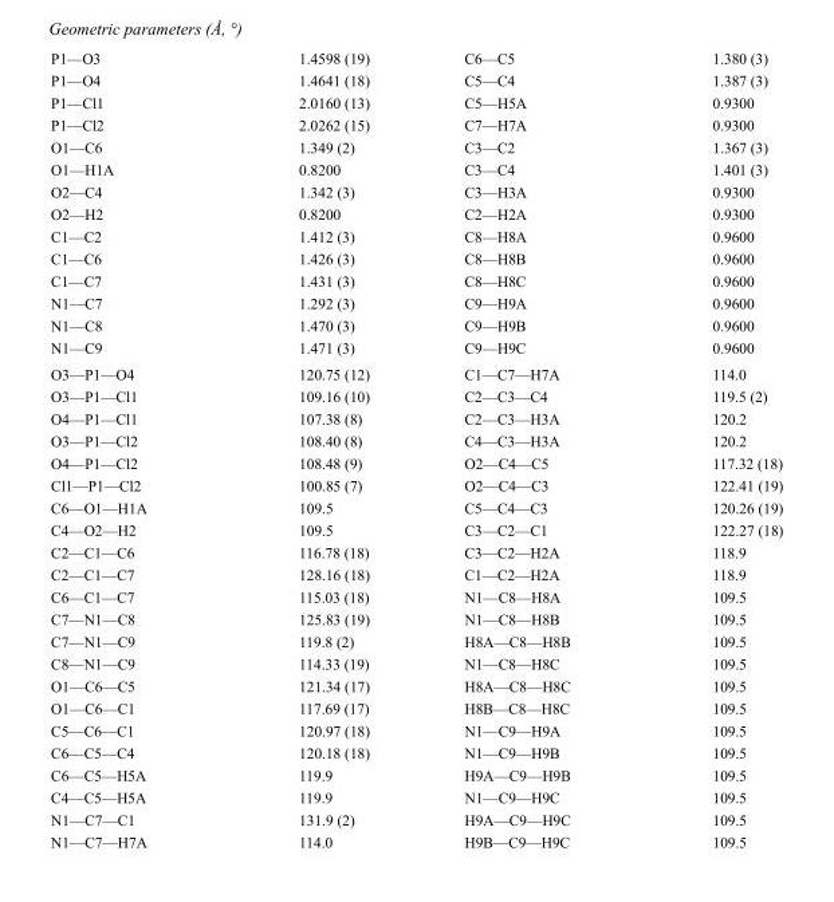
<table><tbody><tr><td>P1—O3</td><td>1.4598 (19)</td><td>C6—C5</td><td>1.380 (3)</td></tr><tr><td>P1—O4</td><td>1.4641 (18)</td><td>C5—C4</td><td>1.387 (3)</td></tr><tr><td>P1—Cl1</td><td>2.0160 (13)</td><td>C5—H5A</td><td>0.9300</td></tr><tr><td>P1—Cl2</td><td>2.0262 (15)</td><td>C7—H7A</td><td>0.9300</td></tr><tr><td>O1—C6</td><td>1.349 (2)</td><td>C3—C2</td><td>1.367 (3)</td></tr><tr><td>O1—H1A</td><td>0.8200</td><td>C3—C4</td><td>1.401 (3)</td></tr><tr><td>O2—C4</td><td>1.342 (3)</td><td>C3—H3A</td><td>0.9300</td></tr><tr><td>O2—H2</td><td>0.8200</td><td>C2—H2A</td><td>0.9300</td></tr><tr><td>C1—C2</td><td>1.412 (3)</td><td>C8—H8A</td><td>0.9600</td></tr><tr><td>C1—C6</td><td>1.426 (3)</td><td>C8—H8B</td><td>0.9600</td></tr><tr><td>C1—C7</td><td>1.431 (3)</td><td>C8—H8C</td><td>0.9600</td></tr><tr><td>N1—C7</td><td>1.292 (3)</td><td>C9—H9A</td><td>0.9600</td></tr><tr><td>N1—C8</td><td>1.470 (3)</td><td>C9—H9B</td><td>0.9600</td></tr><tr><td>N1—C9</td><td>1.471 (3)</td><td>C9—H9C</td><td>0.9600</td></tr><tr><td>O3—P1—O4</td><td>120.75 (12)</td><td>C1—C7—H7A</td><td>114.0</td></tr><tr><td>O3—P1—Cl1</td><td>109.16 (10)</td><td>C2—C3—C4</td><td>119.5 (2)</td></tr><tr><td>O4—P1—Cl1</td><td>107.38 (8)</td><td>C2—C3—H3A</td><td>120.2</td></tr><tr><td>O3—P1—Cl2</td><td>108.40 (8)</td><td>C4—C3—H3A</td><td>120.2</td></tr><tr><td>O4—P1—Cl2</td><td>108.48 (9)</td><td>O2—C4—C5</td><td>117.32 (18)</td></tr><tr><td>Cl1—P1—Cl2</td><td>100.85 (7)</td><td>O2—C4—C3</td><td>122.41 (19)</td></tr><tr><td>C6—O1—H1A</td><td>109.5</td><td>C5—C4—C3</td><td>120.26 (19)</td></tr><tr><td>C4—O2—H2</td><td>109.5</td><td>C3—C2—C1</td><td>122.27 (18)</td></tr><tr><td>C2—C1—C6</td><td>116.78 (18)</td><td>C3—C2—H2A</td><td>118.9</td></tr><tr><td>C2—C1—C7</td><td>128.16 (18)</td><td>C1—C2—H2A</td><td>118.9</td></tr><tr><td>C6—C1—C7</td><td>115.03 (18)</td><td>N1—C8—H8A</td><td>109.5</td></tr><tr><td>C7—N1—C8</td><td>125.83 (19)</td><td>N1—C8—H8B</td><td>109.5</td></tr><tr><td>C7—N1—C9</td><td>119.8 (2)</td><td>H8A—C8—H8B</td><td>109.5</td></tr><tr><td>C8—N1—C9</td><td>114.33 (19)</td><td>N1—C8—H8C</td><td>109.5</td></tr><tr><td>O1—C6—C5</td><td>121.34 (17)</td><td>H8A—C8—H8C</td><td>109.5</td></tr><tr><td>O1—C6—C1</td><td>117.69 (17)</td><td>H8B—C8—H8C</td><td>109.5</td></tr><tr><td>C5—C6—C1</td><td>120.97 (18)</td><td>N1—C9—H9A</td><td>109.5</td></tr><tr><td>C6—C5—C4</td><td>120.18 (18)</td><td>N1—C9—H9B</td><td>109.5</td></tr><tr><td>C6—C5—H5A</td><td>119.9</td><td>H9A—C9—H9B</td><td>109.5</td></tr><tr><td>C4—C5—H5A</td><td>119.9</td><td>N1—C9—H9C</td><td>109.5</td></tr><tr><td>N1—C7—C1</td><td>131.9 (2)</td><td>H9A—C9—H9C</td><td>109.5</td></tr><tr><td>N1—C7—H7A</td><td>114.0</td><td>H9B—C9—H9C</td><td>109.5</td></tr></tbody></table>